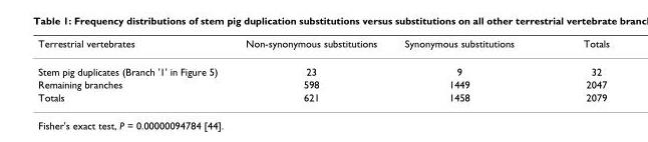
<table><thead><tr><td>Terrestrial vertebrates</td><td>Non-synonymous substitutions</td><td>Synonymous substitutions</td><td>Totals</td></tr></thead><tbody><tr><td>Stem pig duplicates (Branch &#x27;1&#x27; in Figure 5)</td><td>23</td><td>9</td><td>32</td></tr><tr><td>Remaining branches</td><td>598</td><td>1449</td><td>2047</td></tr><tr><td>Totals</td><td>621</td><td>1458</td><td>2079</td></tr></tbody></table>